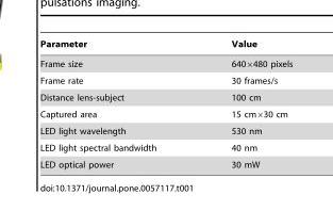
<table><thead><tr><td>Parameter</td><td>Value</td></tr></thead><tbody><tr><td>Frame size</td><td>640×480 pixels</td></tr><tr><td>Frame rate</td><td>30 frames/s</td></tr><tr><td>Distance lens-subject</td><td>100 cm</td></tr><tr><td>Captured area</td><td>15 cm×30 cm</td></tr><tr><td>LED light wavelength</td><td>530 nm</td></tr><tr><td>LED light spectral bandwidth</td><td>40 nm</td></tr><tr><td>LED optical power</td><td>30 mW</td></tr></tbody></table>